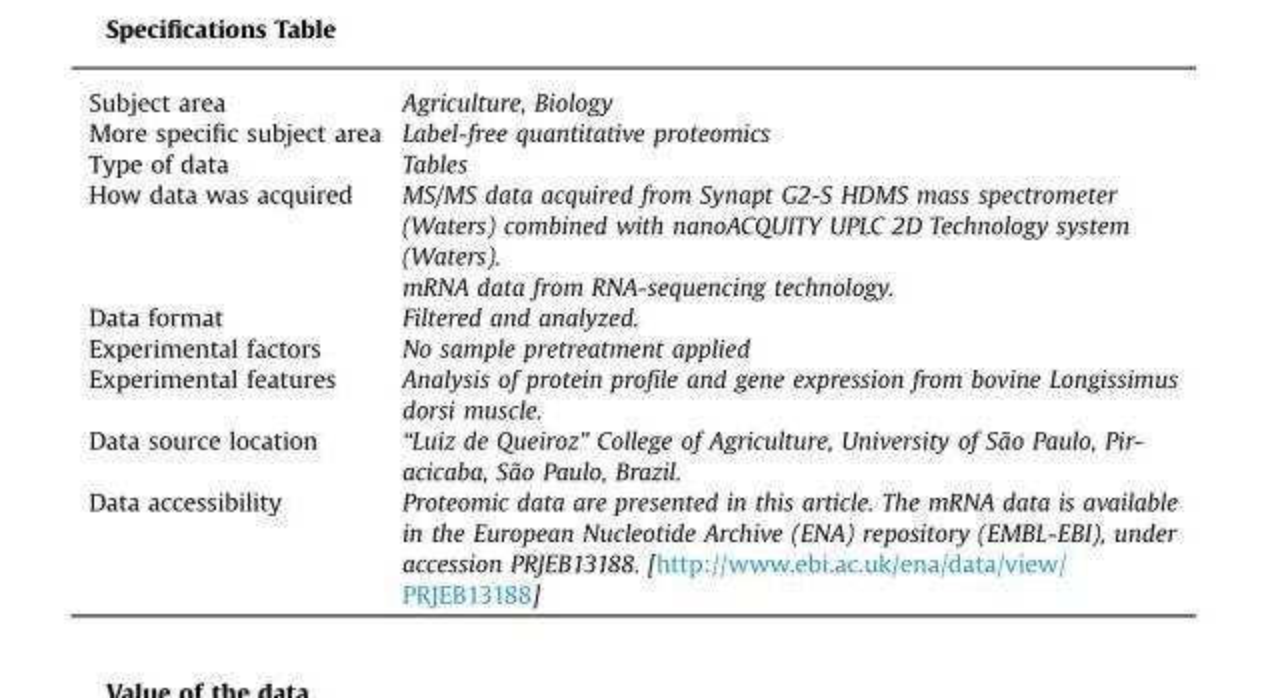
<table><tbody><tr><td>Subject area</td><td>Agriculture, Biology</td></tr><tr><td>More specific subject area</td><td>Label-free quantitative proteomics</td></tr><tr><td>Type of data</td><td>Tables</td></tr><tr><td rowspan="2">How data was acquired</td><td>MS/MS data acquired from Synapt G2-S HDMS mass spectrometer (Waters) combined with nanoACQUITY UPLC 2D Technology system (Waters).</td></tr><tr><td>mRNA data from RNA-sequencing technology.</td></tr><tr><td>Data format</td><td>Filtered and analyzed.</td></tr><tr><td>Experimental factors</td><td>No sample pretreatment applied</td></tr><tr><td>Experimental features</td><td>Analysis of protein profile and gene expression from bovine Longissimus dorsi muscle.</td></tr><tr><td>Data source location</td><td>“Luiz de Queiroz” College of Agriculture, University of São Paulo, Pir- acicaba, São Paulo, Brazil.</td></tr><tr><td>Data accessibility</td><td>Proteomic data are presented in this article. The mRNA data is available in the European Nucleotide Archive (ENA) repository (EMBL-EBI), under accession PRJEB13188. [http://www.ebi.ac.uk/ena/data/view/ PRJEB13188]</td></tr></tbody></table>